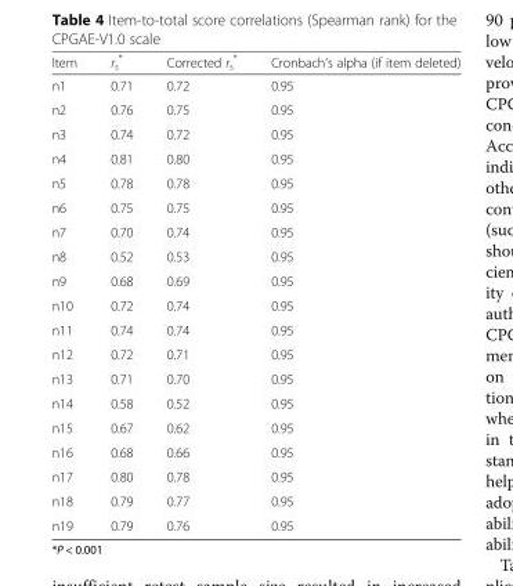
<table><thead><tr><td>Item</td><td>r<sub>s</sub> *</td><td>Corrected r<sub>s</sub> *</td><td>Cronbach’s alpha (if item deleted)</td></tr></thead><tbody><tr><td>n1</td><td>0.71</td><td>0.72</td><td>0.95</td></tr><tr><td>n2</td><td>0.76</td><td>0.75</td><td>0.95</td></tr><tr><td>n3</td><td>0.74</td><td>0.72</td><td>0.95</td></tr><tr><td>n4</td><td>0.81</td><td>0.80</td><td>0.95</td></tr><tr><td>n5</td><td>0.78</td><td>0.78</td><td>0.95</td></tr><tr><td>n6</td><td>0.75</td><td>0.75</td><td>0.95</td></tr><tr><td>n7</td><td>0.70</td><td>0.74</td><td>0.95</td></tr><tr><td>n8</td><td>0.52</td><td>0.53</td><td>0.95</td></tr><tr><td>n9</td><td>0.68</td><td>0.69</td><td>0.95</td></tr><tr><td>n10</td><td>0.72</td><td>0.74</td><td>0.95</td></tr><tr><td>n11</td><td>0.74</td><td>0.74</td><td>0.95</td></tr><tr><td>n12</td><td>0.72</td><td>0.71</td><td>0.95</td></tr><tr><td>n13</td><td>0.71</td><td>0.70</td><td>0.95</td></tr><tr><td>n14</td><td>0.58</td><td>0.52</td><td>0.95</td></tr><tr><td>n15</td><td>0.67</td><td>0.62</td><td>0.95</td></tr><tr><td>n16</td><td>0.68</td><td>0.66</td><td>0.95</td></tr><tr><td>n17</td><td>0.80</td><td>0.78</td><td>0.95</td></tr><tr><td>n18</td><td>0.79</td><td>0.77</td><td>0.95</td></tr><tr><td>n19</td><td>0.79</td><td>0.76</td><td>0.95</td></tr></tbody></table>